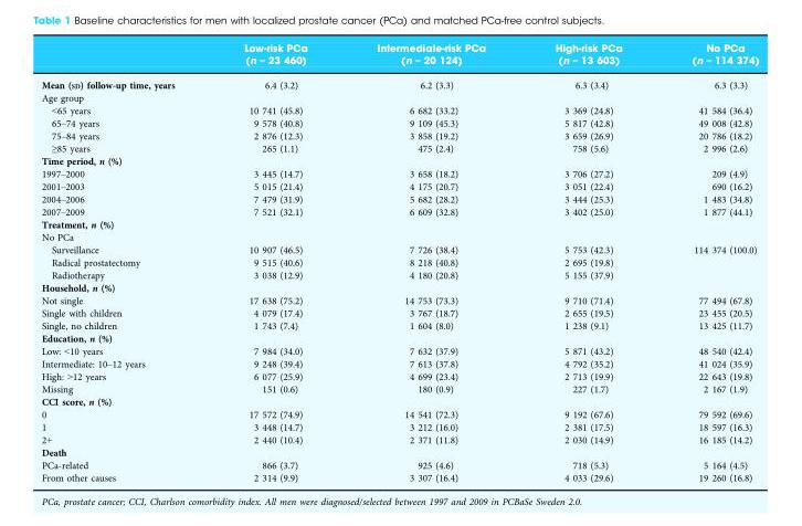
<table><thead><tr><td></td><td>Low-risk PCa (n = 23 460)</td><td>Intermediate-risk PCa (n = 20 124)</td><td>High-risk PCa (n = 13 603)</td><td>No PCa (n = 114 374)</td></tr></thead><tbody><tr><td>Mean (SD) follow-up time, years</td><td>6.4 (3.2)</td><td>6.2 (3.3)</td><td>6.3 (3.4)</td><td>6.3 (3.3)</td></tr><tr><td colspan="5">Age group</td></tr><tr><td>&lt;65 years</td><td>10 741 (45.8)</td><td>6 682 (33.2)</td><td>3 369 (24.8)</td><td>41 584 (36.4)</td></tr><tr><td>65–74 years</td><td>9 578 (40.8)</td><td>9 109 (45.3)</td><td>5 817 (42.8)</td><td>49 008 (42.8)</td></tr><tr><td>75–84 years</td><td>2 876 (12.3)</td><td>3 858 (19.2)</td><td>3 659 (26.9)</td><td>20 786 (18.2)</td></tr><tr><td>≥85 years</td><td>265 (1.1)</td><td>475 (2.4)</td><td>758 (5.6)</td><td>2 996 (2.6)</td></tr><tr><td colspan="5">Time period, n (%)</td></tr><tr><td>1997–2000</td><td>3 445 (14.7)</td><td>3 658 (18.2)</td><td>3 706 (27.2)</td><td>209 (4.9)</td></tr><tr><td>2001–2003</td><td>5 015 (21.4)</td><td>4 175 (20.7)</td><td>3 051 (22.4)</td><td>690 (16.2)</td></tr><tr><td>2004–2006</td><td>7 479 (31.9)</td><td>5 682 (28.2)</td><td>3 444 (25.3)</td><td>1 483 (34.8)</td></tr><tr><td>2007–2009</td><td>7 521 (32.1)</td><td>6 609 (32.8)</td><td>3 402 (25.0)</td><td>1 877 (44.1)</td></tr><tr><td colspan="5">Treatment, n (%)</td></tr><tr><td colspan="5">No PCa</td></tr><tr><td>Surveillance</td><td>10 907 (46.5)</td><td>7 726 (38.4)</td><td>5 753 (42.3)</td><td rowspan="3">114 374 (100.0)</td></tr><tr><td>Radical prostatectomy</td><td>9 515 (40.6)</td><td>8 218 (40.8)</td><td>2 695 (19.8)</td></tr><tr><td>Radiotherapy</td><td>3 038 (12.9)</td><td>4 180 (20.8)</td><td>5 155 (37.9)</td></tr><tr><td colspan="5">Household, n (%)</td></tr><tr><td>Not single</td><td>17 638 (75.2)</td><td>14 753 (73.3)</td><td>9 710 (71.4)</td><td>77 494 (67.8)</td></tr><tr><td>Single with children</td><td>4 079 (17.4)</td><td>3 767 (18.7)</td><td>2 655 (19.5)</td><td>23 455 (20.5)</td></tr><tr><td>Single, no children</td><td>1 743 (7.4)</td><td>1 604 (8.0)</td><td>1 238 (9.1)</td><td>13 425 (11.7)</td></tr><tr><td colspan="5">Education, n (%)</td></tr><tr><td>Low: &lt;10 years</td><td>7 984 (34.0)</td><td>7 632 (37.9)</td><td>5 871 (43.2)</td><td>48 540 (42.4)</td></tr><tr><td>Intermediate: 10–12 years</td><td>9 248 (39.4)</td><td>7 613 (37.8)</td><td>4 792 (35.2)</td><td>41 024 (35.9)</td></tr><tr><td>High: &gt;12 years</td><td>6 077 (25.9)</td><td>4 699 (23.4)</td><td>2 713 (19.9)</td><td>22 643 (19.8)</td></tr><tr><td>Missing</td><td>151 (0.6)</td><td>180 (0.9)</td><td>227 (1.7)</td><td>2 167 (1.9)</td></tr><tr><td colspan="5">CCI score, n (%)</td></tr><tr><td>0</td><td>17 572 (74.9)</td><td>14 541 (72.3)</td><td>9 192 (67.6)</td><td>79 592 (69.6)</td></tr><tr><td>1</td><td>3 448 (14.7)</td><td>3 212 (16.0)</td><td>2 381 (17.5)</td><td>18 597 (16.3)</td></tr><tr><td>2+</td><td>2 440 (10.4)</td><td>2 371 (11.8)</td><td>2 030 (14.9)</td><td>16 185 (14.2)</td></tr><tr><td colspan="5">Death</td></tr><tr><td>PCa-related</td><td>866 (3.7)</td><td>925 (4.6)</td><td>718 (5.3)</td><td>5 164 (4.5)</td></tr><tr><td>From other causes</td><td>2 314 (9.9)</td><td>3 307 (16.4)</td><td>4 033 (29.6)</td><td>19 260 (16.8)</td></tr></tbody></table>